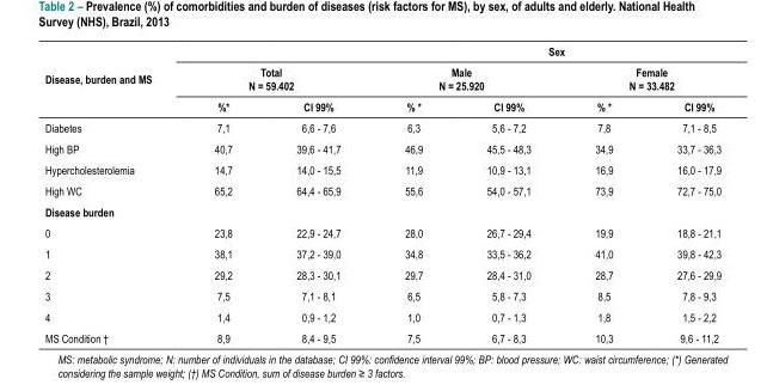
<table><thead><tr><td rowspan="3">Disease, burden and MS</td><td></td><td></td><td colspan="4">Sex</td></tr><tr><td colspan="2">Total N = 59.402</td><td colspan="2">Male N = 25.920</td><td colspan="2">Female N = 33.482</td></tr><tr><td>%*</td><td>CI 99%</td><td>% *</td><td>CI 99%</td><td>% *</td><td>CI 99%</td></tr></thead><tbody><tr><td>Diabetes</td><td>7,1</td><td>6,6 - 7,6</td><td>6,3</td><td>5,6 - 7,2</td><td>7,8</td><td>7,1 - 8,5</td></tr><tr><td>High BP</td><td>40,7</td><td>39,6 - 41,7</td><td>46,9</td><td>45,5 - 48,3</td><td>34,9</td><td>33,7 - 36,3</td></tr><tr><td>Hypercholesterolemia</td><td>14,7</td><td>14,0 - 15,5</td><td>11,9</td><td>10,9 - 13,1</td><td>16,9</td><td>16,0 - 17,9</td></tr><tr><td>High WC</td><td>65,2</td><td>64,4 - 65,9</td><td>55,6</td><td>54,0 - 57,1</td><td>73,9</td><td>72,7 - 75,0</td></tr><tr><td colspan="7">Disease burden</td></tr><tr><td>0</td><td>23,8</td><td>22,9 - 24,7</td><td>28,0</td><td>26,7 - 29,4</td><td>19,9</td><td>18,8 - 21,1</td></tr><tr><td>1</td><td>38,1</td><td>37,2 - 39,0</td><td>34,8</td><td>33,5 - 36,2</td><td>41,0</td><td>39,8 - 42,3</td></tr><tr><td>2</td><td>29,2</td><td>28,3 - 30,1</td><td>29,7</td><td>28,4 - 31,0</td><td>28,7</td><td>27,6 - 29,9</td></tr><tr><td>3</td><td>7,5</td><td>7,1 - 8,1</td><td>6,5</td><td>5,8 - 7,3</td><td>8,5</td><td>7,8 - 9,3</td></tr><tr><td>4</td><td>1,4</td><td>0,9 - 1,2</td><td>1,0</td><td>0,7 - 1,3</td><td>1,8</td><td>1,5 - 2,2</td></tr><tr><td>MS Condition †</td><td>8,9</td><td>8,4 - 9,5</td><td>7,5</td><td>6,7 - 8,3</td><td>10,3</td><td>9,6 - 11,2</td></tr></tbody></table>